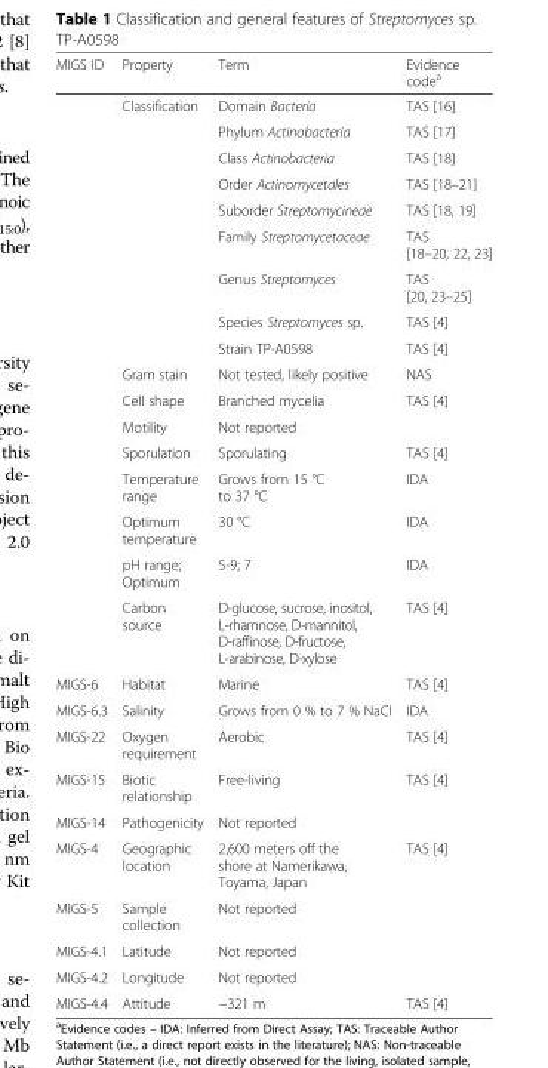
<table><thead><tr><td>MIGS ID</td><td>Property</td><td>Term</td><td>Evidence code<sup>a</sup></td></tr></thead><tbody><tr><td rowspan="9"></td><td rowspan="9">Classification</td><td>Domain Bacteria</td><td>TAS [16]</td></tr><tr><td>Phylum Actinobacteria</td><td>TAS [17]</td></tr><tr><td>Class Actinobacteria</td><td>TAS [18]</td></tr><tr><td>Order Actinomycetales</td><td>TAS [18–21]</td></tr><tr><td>Suborder Streptomycineae</td><td>TAS [18, 19]</td></tr><tr><td>Family Streptomycetaceae</td><td>TAS [18–20, 22, 23]</td></tr><tr><td>Genus Streptomyces</td><td>TAS [20, 23–25]</td></tr><tr><td>Species Streptomyces sp.</td><td>TAS [4]</td></tr><tr><td>Strain TP-A0598</td><td>TAS [4]</td></tr><tr><td></td><td>Gram stain</td><td>Not tested, likely positive</td><td>NAS</td></tr><tr><td></td><td>Cell shape</td><td>Branched mycelia</td><td>TAS [4]</td></tr><tr><td></td><td>Motility</td><td>Not reported</td><td></td></tr><tr><td></td><td>Sporulation</td><td>Sporulating</td><td>TAS [4]</td></tr><tr><td></td><td>Temperature range</td><td>Grows from 15 °C to 37 °C</td><td>IDA</td></tr><tr><td></td><td>Optimum temperature</td><td>30 °C</td><td>IDA</td></tr><tr><td></td><td>pH range; Optimum</td><td>5-9; 7</td><td>IDA</td></tr><tr><td></td><td>Carbon source</td><td>D-glucose, sucrose, inositol, L-rhamnose, D-mannitol, D-raffinose, D-fructose, L-arabinose, D-xylose</td><td>TAS [4]</td></tr><tr><td>MIGS-6</td><td>Habitat</td><td>Marine</td><td>TAS [4]</td></tr><tr><td>MIGS-6.3</td><td>Salinity</td><td>Grows from 0 % to 7 % NaCl</td><td>IDA</td></tr><tr><td>MIGS-22</td><td>Oxygen requirement</td><td>Aerobic</td><td>TAS [4]</td></tr><tr><td>MIGS-15</td><td>Biotic relationship</td><td>Free-living</td><td>TAS [4]</td></tr><tr><td>MIGS-14</td><td>Pathogenicity</td><td>Not reported</td><td></td></tr><tr><td>MIGS-4</td><td>Geographic location</td><td>2,600 meters off the shore at Namerikawa, Toyama, Japan</td><td>TAS [4]</td></tr><tr><td>MIGS-5</td><td>Sample collection</td><td>Not reported</td><td></td></tr><tr><td>MIGS-4.1</td><td>Latitude</td><td>Not reported</td><td></td></tr><tr><td>MIGS-4.2</td><td>Longitude</td><td>Not reported</td><td></td></tr><tr><td>MIGS-4.4</td><td>Attitude</td><td>−321 m</td><td>TAS [4]</td></tr></tbody></table>